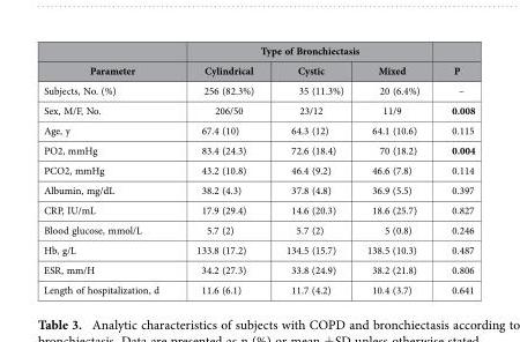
<table><thead><tr><td rowspan="2">Parameter</td><td colspan="3">Type of Bronchiectasis</td><td rowspan="2">P</td></tr><tr><td>Cylindrical</td><td>Cystic</td><td>Mixed</td></tr></thead><tbody><tr><td>Subjects, No. (%)</td><td>256 (82.3%)</td><td>35 (11.3%)</td><td>20 (6.4%)</td><td>–</td></tr><tr><td>Sex, M/F, No.</td><td>206/50</td><td>23/12</td><td>11/9</td><td>0.008</td></tr><tr><td>Age, y</td><td>67.4 (10)</td><td>64.3 (12)</td><td>64.1 (10.6)</td><td>0.115</td></tr><tr><td>PO2, mmHg</td><td>83.4 (24.3)</td><td>72.6 (18.4)</td><td>70 (18.2)</td><td>0.004</td></tr><tr><td>PCO2, mmHg</td><td>43.2 (10.8)</td><td>46.4 (9.2)</td><td>46.6 (7.8)</td><td>0.114</td></tr><tr><td>Albumin, mg/dL</td><td>38.2 (4.3)</td><td>37.8 (4.8)</td><td>36.9 (5.5)</td><td>0.397</td></tr><tr><td>CRP, IU/mL</td><td>17.9 (29.4)</td><td>14.6 (20.3)</td><td>18.6 (25.7)</td><td>0.827</td></tr><tr><td>Blood glucose, mmol/L</td><td>5.7 (2)</td><td>5.7 (2)</td><td>5 (0.8)</td><td>0.246</td></tr><tr><td>Hb, g/L</td><td>133.8 (17.2)</td><td>134.5 (15.7)</td><td>138.5 (10.3)</td><td>0.487</td></tr><tr><td>ESR, mm/H</td><td>34.2 (27.3)</td><td>33.8 (24.9)</td><td>38.2 (21.8)</td><td>0.806</td></tr><tr><td>Length of hospitalization, d</td><td>11.6 (6.1)</td><td>11.7 (4.2)</td><td>10.4 (3.7)</td><td>0.641</td></tr></tbody></table>